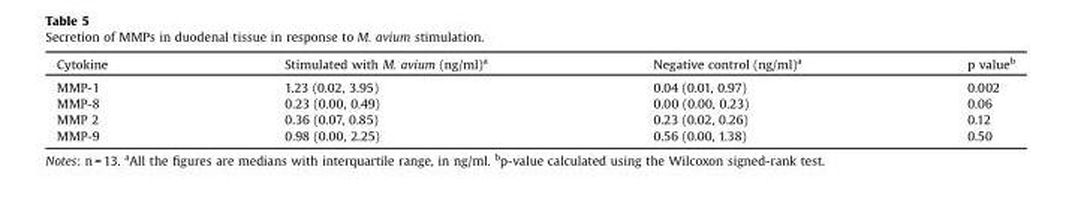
<table><thead><tr><td>Cytokine</td><td>Stimulated with M. avium (ng/ml)<sup>a</sup></td><td>Negative control (ng/ml)<sup>a</sup></td><td>p value<sup>b</sup></td></tr></thead><tbody><tr><td>MMP-1</td><td>1.23 (0.02, 3.95)</td><td>0.04 (0.01, 0.97)</td><td>0.002</td></tr><tr><td>MMP-8</td><td>0.23 (0.00, 0.49)</td><td>0.00 (0.00, 0.23)</td><td>0.06</td></tr><tr><td>MMP 2</td><td>0.36 (0.07, 0.85)</td><td>0.23 (0.02, 0.26)</td><td>0.12</td></tr><tr><td>MMP-9</td><td>0.98 (0.00, 2.25)</td><td>0.56 (0.00, 1.38)</td><td>0.50</td></tr></tbody></table>